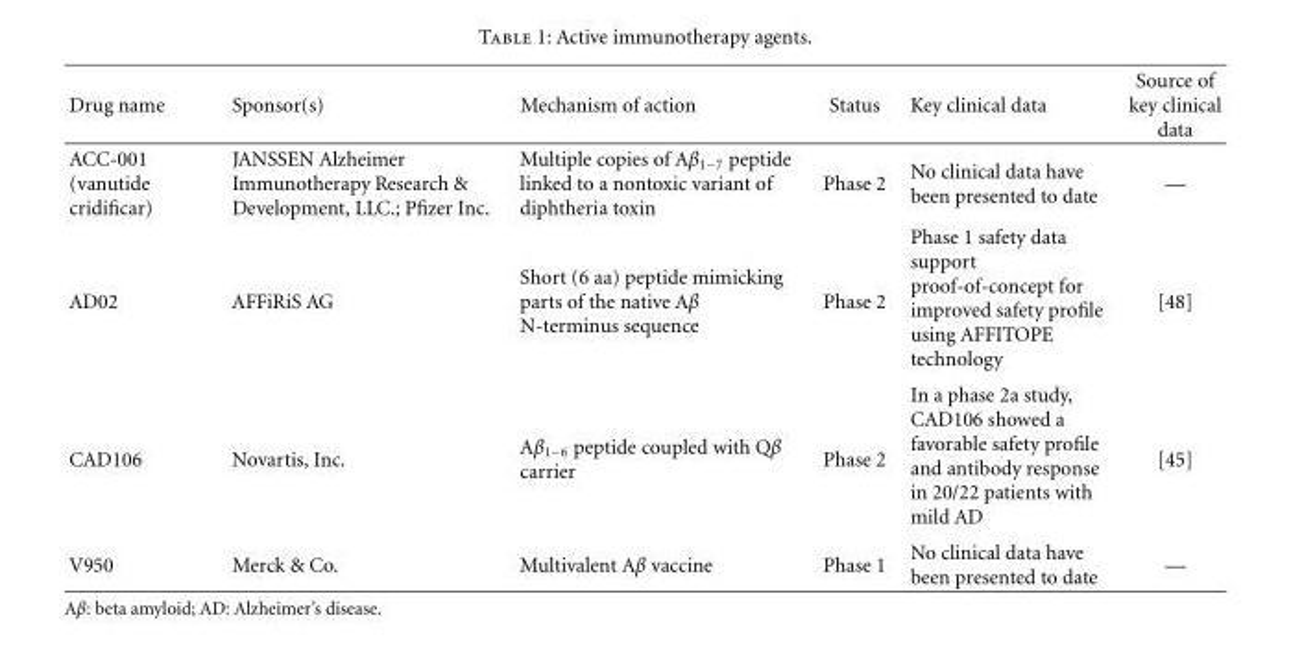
<table><thead><tr><td>Drug name</td><td>Sponsor(s)</td><td>Mechanism of action</td><td>Status</td><td>Key clinical data</td><td>Source of key clinical data</td></tr></thead><tbody><tr><td>ACC-001 (vanutide cridificar)</td><td>JANSSEN Alzheimer Immunotherapy Research &amp; Development, LLC.; Pfizer Inc.</td><td>Multiple copies of Aβ<sub>1−7</sub> peptide linked to a nontoxic variant of diphtheria toxin</td><td>Phase 2</td><td>No clinical data have been presented to date</td><td>—</td></tr><tr><td>AD02</td><td>AFFiRiS AG</td><td>Short (6 aa) peptide mimicking parts of the native Aβ N-terminus sequence</td><td>Phase 2</td><td>Phase 1 safety data support proof-of-concept for improved safety profile using AFFITOPE technology</td><td>[48]</td></tr><tr><td>CAD106</td><td>Novartis, Inc.</td><td>Aβ<sub>1−6</sub> peptide coupled with Qβ carrier</td><td>Phase 2</td><td>In a phase 2a study, CAD106 showed a favorable safety profile and antibody response in 20/22 patients with mild AD</td><td>[45]</td></tr><tr><td>V950</td><td>Merck &amp; Co.</td><td>Multivalent Aβ vaccine</td><td>Phase 1</td><td>No clinical data have been presented to date</td><td>—</td></tr></tbody></table>